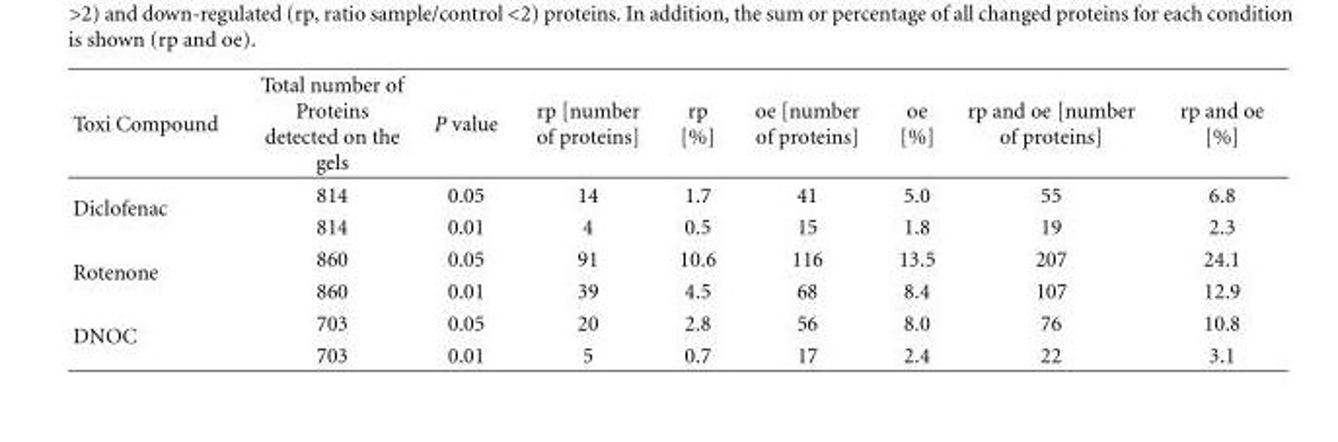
<table><thead><tr><td>Toxi Compound</td><td>Total number of Proteins detected on the gels</td><td>P value</td><td>rp [number of proteins]</td><td>rp [%]</td><td>oe [number of proteins]</td><td>oe [%]</td><td>rp and oe [number of proteins]</td><td>rp and oe [%]</td></tr></thead><tbody><tr><td rowspan="2">Diclofenac</td><td>814</td><td>0.05</td><td>14</td><td>1.7</td><td>41</td><td>5.0</td><td>55</td><td>6.8</td></tr><tr><td>814</td><td>0.01</td><td>4</td><td>0.5</td><td>15</td><td>1.8</td><td>19</td><td>2.3</td></tr><tr><td rowspan="2">Rotenone</td><td>860</td><td>0.05</td><td>91</td><td>10.6</td><td>116</td><td>13.5</td><td>207</td><td>24.1</td></tr><tr><td>860</td><td>0.01</td><td>39</td><td>4.5</td><td>68</td><td>8.4</td><td>107</td><td>12.9</td></tr><tr><td rowspan="2">DNOC</td><td>703</td><td>0.05</td><td>20</td><td>2.8</td><td>56</td><td>8.0</td><td>76</td><td>10.8</td></tr><tr><td>703</td><td>0.01</td><td>5</td><td>0.7</td><td>17</td><td>2.4</td><td>22</td><td>3.1</td></tr></tbody></table>